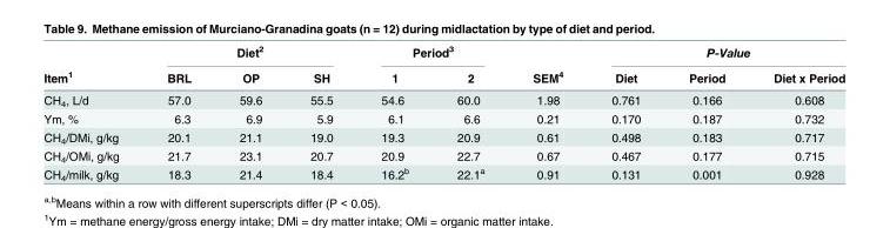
<table><thead><tr><td rowspan="2">Item<sup>1</sup></td><td colspan="3">Diet<sup>2</sup></td><td colspan="2">Period<sup>3</sup></td><td rowspan="2">SEM<sup>4</sup></td><td colspan="3">P-Value</td></tr><tr><td>BRL</td><td>OP</td><td>SH</td><td>1</td><td>2</td><td>Diet</td><td>Period</td><td>Diet x Period</td></tr></thead><tbody><tr><td>CH<sub>4</sub>, L/d</td><td>57.0</td><td>59.6</td><td>55.5</td><td>54.6</td><td>60.0</td><td>1.98</td><td>0.761</td><td>0.166</td><td>0.608</td></tr><tr><td>Ym, %</td><td>6.3</td><td>6.9</td><td>5.9</td><td>6.1</td><td>6.6</td><td>0.21</td><td>0.170</td><td>0.187</td><td>0.732</td></tr><tr><td>CH<sub>4</sub>/DMi, g/kg</td><td>20.1</td><td>21.1</td><td>19.0</td><td>19.3</td><td>20.9</td><td>0.61</td><td>0.498</td><td>0.183</td><td>0.717</td></tr><tr><td>CH<sub>4</sub>/OMi, g/kg</td><td>21.7</td><td>23.1</td><td>20.7</td><td>20.9</td><td>22.7</td><td>0.67</td><td>0.467</td><td>0.177</td><td>0.715</td></tr><tr><td>CH<sub>4</sub>/milk, g/kg</td><td>18.3</td><td>21.4</td><td>18.4</td><td>16.2<sup>b</sup></td><td>22.1<sup>a</sup></td><td>0.91</td><td>0.131</td><td>0.001</td><td>0.928</td></tr></tbody></table>